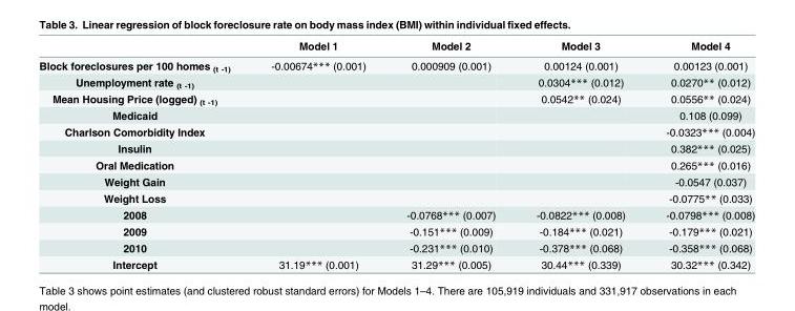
<table><thead><tr><td></td><td>Model 1</td><td>Model 2</td><td>Model 3</td><td>Model 4</td></tr></thead><tbody><tr><td>Block foreclosures per 100 homes <sub>(t -1)</sub></td><td>-0.00674*** (0.001)</td><td>0.000909 (0.001)</td><td>0.00124 (0.001)</td><td>0.00123 (0.001)</td></tr><tr><td>Unemployment rate <sub>(t -1)</sub></td><td></td><td></td><td>0.0304*** (0.012)</td><td>0.0270** (0.012)</td></tr><tr><td>Mean Housing Price (logged) <sub>(t -1)</sub></td><td></td><td></td><td>0.0542** (0.024)</td><td>0.0556** (0.024)</td></tr><tr><td>Medicaid</td><td></td><td></td><td></td><td>0.108 (0.099)</td></tr><tr><td>Charlson Comorbidity Index</td><td></td><td></td><td></td><td>-0.0323*** (0.004)</td></tr><tr><td>Insulin</td><td></td><td></td><td></td><td>0.382*** (0.025)</td></tr><tr><td>Oral Medication</td><td></td><td></td><td></td><td>0.265*** (0.016)</td></tr><tr><td>Weight Gain</td><td></td><td></td><td></td><td>-0.0547 (0.037)</td></tr><tr><td>Weight Loss</td><td></td><td></td><td></td><td>-0.0775** (0.033)</td></tr><tr><td>2008</td><td></td><td>-0.0768*** (0.007)</td><td>-0.0822*** (0.008)</td><td>-0.0798*** (0.008)</td></tr><tr><td>2009</td><td></td><td>-0.151*** (0.009)</td><td>-0.184*** (0.021)</td><td>-0.179*** (0.021)</td></tr><tr><td>2010</td><td></td><td>-0.231*** (0.010)</td><td>-0.378*** (0.068)</td><td>-0.358*** (0.068)</td></tr><tr><td>Intercept</td><td>31.19*** (0.001)</td><td>31.29*** (0.005)</td><td>30.44*** (0.339)</td><td>30.32*** (0.342)</td></tr></tbody></table>